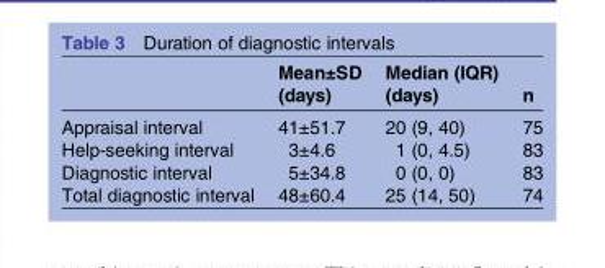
<table><thead><tr><td></td><td>Mean±SD (days)</td><td>Median (IQR) (days)</td><td>n</td></tr></thead><tbody><tr><td>Appraisal interval</td><td>41±51.7</td><td>20 (9, 40)</td><td>75</td></tr><tr><td>Help-seeking interval</td><td>3±4.6</td><td>1 (0, 4.5)</td><td>83</td></tr><tr><td>Diagnostic interval</td><td>5±34.8</td><td>0 (0, 0)</td><td>83</td></tr><tr><td>Total diagnostic interval</td><td>48±60.4</td><td>25 (14, 50)</td><td>74</td></tr></tbody></table>